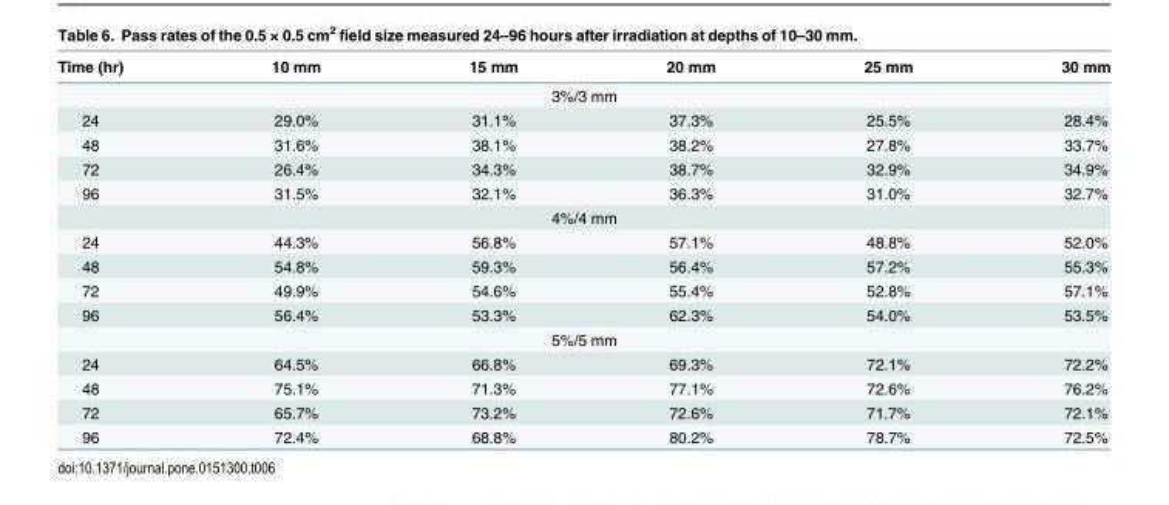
<table><thead><tr><td>Time (hr)</td><td>10 mm</td><td>15 mm</td><td>20 mm</td><td>25 mm</td><td>30 mm</td></tr></thead><tbody><tr><td colspan="6">3%/3 mm</td></tr><tr><td>24</td><td>29.0%</td><td>31.1%</td><td>37.3%</td><td>25.5%</td><td>28.4%</td></tr><tr><td>48</td><td>31.6%</td><td>38.1%</td><td>38.2%</td><td>27.8%</td><td>33.7%</td></tr><tr><td>72</td><td>26.4%</td><td>34.3%</td><td>38.7%</td><td>32.9%</td><td>34.9%</td></tr><tr><td>96</td><td>31.5%</td><td>32.1%</td><td>36.3%</td><td>31.0%</td><td>32.7%</td></tr><tr><td colspan="6">4%/4 mm</td></tr><tr><td>24</td><td>44.3%</td><td>56.8%</td><td>57.1%</td><td>48.8%</td><td>52.0%</td></tr><tr><td>48</td><td>54.8%</td><td>59.3%</td><td>56.4%</td><td>57.2%</td><td>55.3%</td></tr><tr><td>72</td><td>49.9%</td><td>54.6%</td><td>55.4%</td><td>52.8%</td><td>57.1%</td></tr><tr><td>96</td><td>56.4%</td><td>53.3%</td><td>62.3%</td><td>54.0%</td><td>53.5%</td></tr><tr><td colspan="6">5%/5 mm</td></tr><tr><td>24</td><td>64.5%</td><td>66.8%</td><td>69.3%</td><td>72.1%</td><td>72.2%</td></tr><tr><td>48</td><td>75.1%</td><td>71.3%</td><td>77.1%</td><td>72.6%</td><td>76.2%</td></tr><tr><td>72</td><td>65.7%</td><td>73.2%</td><td>72.6%</td><td>71.7%</td><td>72.1%</td></tr><tr><td>96</td><td>72.4%</td><td>68.8%</td><td>80.2%</td><td>78.7%</td><td>72.5%</td></tr></tbody></table>